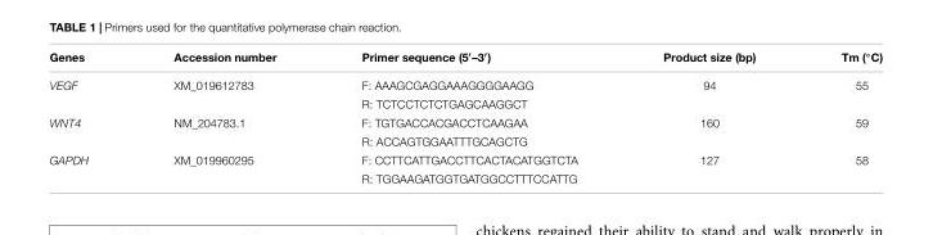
<table><thead><tr><td>Genes</td><td>Accession number</td><td>Primer sequence (5′–3′)</td><td>Product size (bp)</td><td>Tm (◦C)</td></tr></thead><tbody><tr><td rowspan="2">VEGF</td><td>XM_019612783</td><td>F: AAAGCGAGGAAAGGGGAAGG</td><td>94</td><td>55</td></tr><tr><td></td><td>R: TCTCCTCTCTGAGCAAGGCT</td><td></td><td></td></tr><tr><td rowspan="2">WNT4</td><td>NM_204783.1</td><td>F: TGTGACCACGACCTCAAGAA</td><td>160</td><td>59</td></tr><tr><td></td><td>R: ACCAGTGGAATTTGCAGCTG</td><td></td><td></td></tr><tr><td rowspan="2">GAPDH</td><td>XM_019960295</td><td>F: CCTTCATTGACCTTCACTACATGGTCTA</td><td>127</td><td>58</td></tr><tr><td></td><td>R: TGGAAGATGGTGATGGCCTTTCCATTG</td><td></td><td></td></tr></tbody></table>